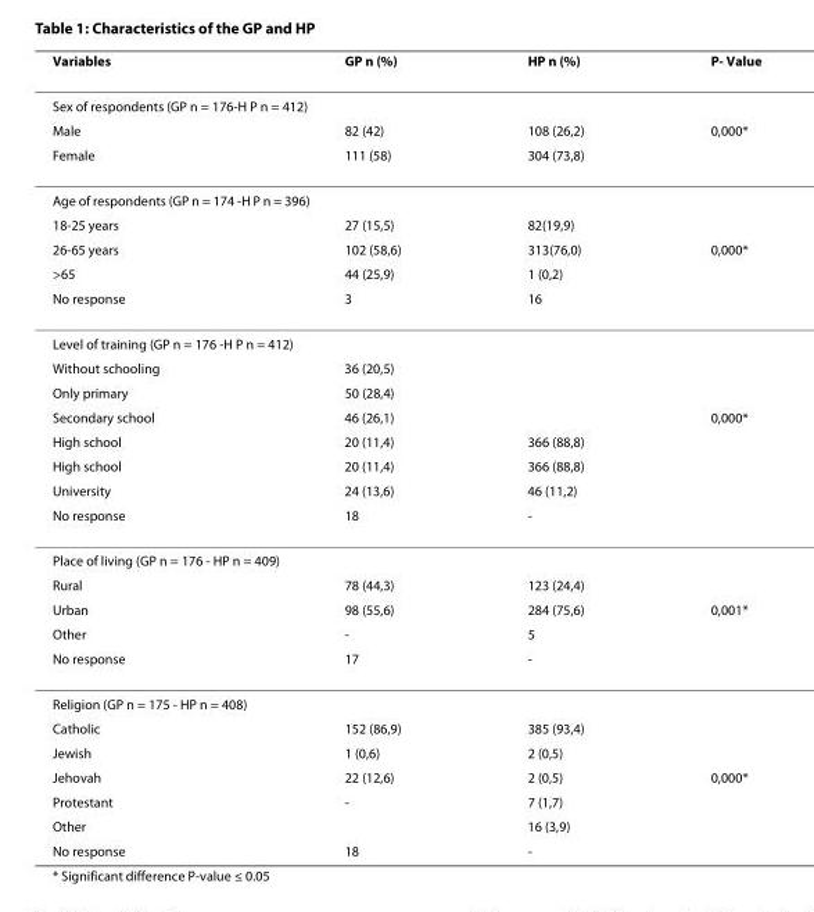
<table><thead><tr><td>Variables</td><td>GP n (%)</td><td>HP n (%)</td><td>P- Value</td></tr></thead><tbody><tr><td colspan="4">Sex of respondents (GP n = 176-H P n = 412)</td></tr><tr><td>Male</td><td>82 (42)</td><td>108 (26,2)</td><td>0,000*</td></tr><tr><td>Female</td><td>111 (58)</td><td>304 (73,8)</td><td></td></tr><tr><td colspan="4">Age of respondents (GP n = 174 -H P n = 396)</td></tr><tr><td>18-25 years</td><td>27 (15,5)</td><td>82(19,9)</td><td></td></tr><tr><td>26-65 years</td><td>102 (58,6)</td><td>313(76,0)</td><td>0,000*</td></tr><tr><td>&gt;65</td><td>44 (25,9)</td><td>1 (0,2)</td><td></td></tr><tr><td>No response</td><td>3</td><td>16</td><td></td></tr><tr><td colspan="4">Level of training (GP n = 176 -H P n = 412)</td></tr><tr><td>Without schooling</td><td>36 (20,5)</td><td></td><td></td></tr><tr><td>Only primary</td><td>50 (28,4)</td><td></td><td></td></tr><tr><td>Secondary school</td><td>46 (26,1)</td><td></td><td>0,000*</td></tr><tr><td>High school</td><td>20 (11,4)</td><td>366 (88,8)</td><td></td></tr><tr><td>High school</td><td>20 (11,4)</td><td>366 (88,8)</td><td></td></tr><tr><td>University</td><td>24 (13,6)</td><td>46 (11,2)</td><td></td></tr><tr><td>No response</td><td>18</td><td>-</td><td></td></tr><tr><td colspan="4">Place of living (GP n = 176 - HP n = 409)</td></tr><tr><td>Rural</td><td>78 (44,3)</td><td>123 (24,4)</td><td></td></tr><tr><td>Urban</td><td>98 (55,6)</td><td>284 (75,6)</td><td>0,001*</td></tr><tr><td>Other</td><td>-</td><td>5</td><td></td></tr><tr><td>No response</td><td>17</td><td>-</td><td></td></tr><tr><td colspan="4">Religion (GP n = 175 - HP n = 408)</td></tr><tr><td>Catholic</td><td>152 (86,9)</td><td>385 (93,4)</td><td></td></tr><tr><td>Jewish</td><td>1 (0,6)</td><td>2 (0,5)</td><td></td></tr><tr><td>Jehovah</td><td>22 (12,6)</td><td>2 (0,5)</td><td>0,000*</td></tr><tr><td>Protestant</td><td>-</td><td>7 (1,7)</td><td></td></tr><tr><td>Other</td><td></td><td>16 (3,9)</td><td></td></tr><tr><td>No response</td><td>18</td><td>-</td><td></td></tr></tbody></table>